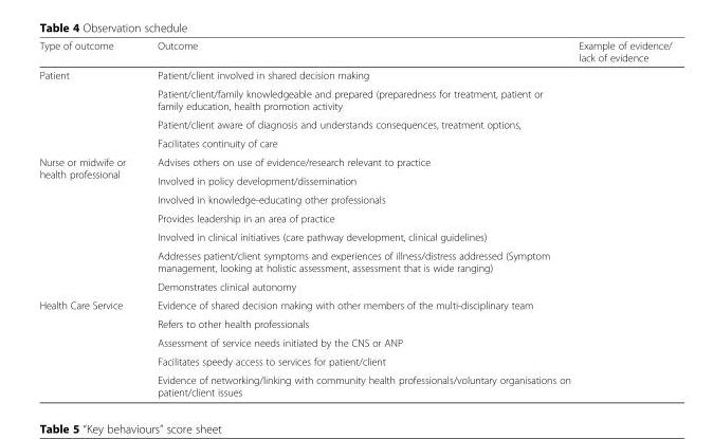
<table><thead><tr><td>Type of outcome</td><td>Outcome</td><td>Example of evidence/ lack of evidence</td></tr></thead><tbody><tr><td rowspan="4">Patient</td><td>Patient/client involved in shared decision making</td><td></td></tr><tr><td>Patient/client/family knowledgeable and prepared (preparedness for treatment, patient or family education, health promotion activity</td><td></td></tr><tr><td>Patient/client aware of diagnosis and understands consequences, treatment options,</td><td></td></tr><tr><td>Facilitates continuity of care</td><td></td></tr><tr><td rowspan="7">Nurse or midwife or health professional</td><td>Advises others on use of evidence/research relevant to practice</td><td></td></tr><tr><td>Involved in policy development/dissemination</td><td></td></tr><tr><td>Involved in knowledge-educating other professionals</td><td></td></tr><tr><td>Provides leadership in an area of practice</td><td></td></tr><tr><td>Involved in clinical initiatives (care pathway development, clinical guidelines)</td><td></td></tr><tr><td>Addresses patient/client symptoms and experiences of illness/distress addressed (Symptom management, looking at holistic assessment, assessment that is wide ranging)</td><td></td></tr><tr><td>Demonstrates clinical autonomy</td><td></td></tr><tr><td rowspan="5">Health Care Service</td><td>Evidence of shared decision making with other members of the multi-disciplinary team</td><td></td></tr><tr><td>Refers to other health professionals</td><td></td></tr><tr><td>Assessment of service needs initiated by the CNS or ANP</td><td></td></tr><tr><td>Facilitates speedy access to services for patient/client</td><td></td></tr><tr><td>Evidence of networking/linking with community health professionals/voluntary organisations on patient/client issues</td><td></td></tr></tbody></table>